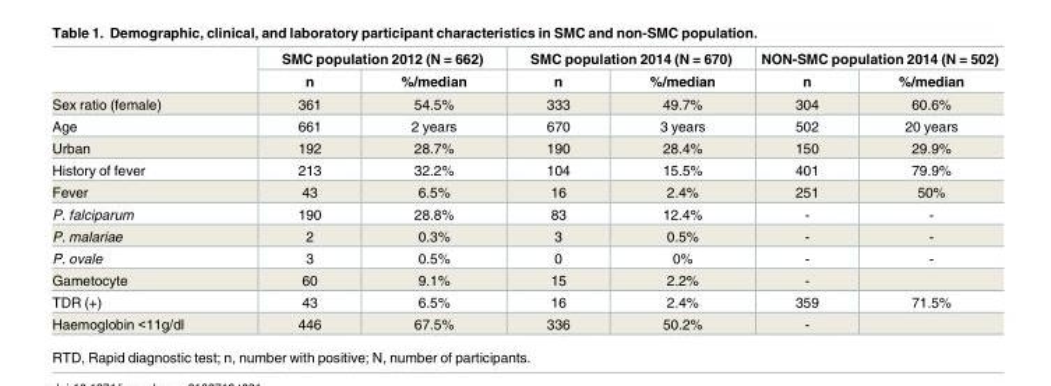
<table><thead><tr><td rowspan="2"></td><td colspan="2">SMC population 2012 (N = 662)</td><td colspan="2">SMC population 2014 (N = 670)</td><td colspan="2">NON-SMC population 2014 (N = 502)</td></tr><tr><td>n</td><td>%/median</td><td>n</td><td>%/median</td><td>n</td><td>%/median</td></tr></thead><tbody><tr><td>Sex ratio (female)</td><td>361</td><td>54.5%</td><td>333</td><td>49.7%</td><td>304</td><td>60.6%</td></tr><tr><td>Age</td><td>661</td><td>2 years</td><td>670</td><td>3 years</td><td>502</td><td>20 years</td></tr><tr><td>Urban</td><td>192</td><td>28.7%</td><td>190</td><td>28.4%</td><td>150</td><td>29.9%</td></tr><tr><td>History of fever</td><td>213</td><td>32.2%</td><td>104</td><td>15.5%</td><td>401</td><td>79.9%</td></tr><tr><td>Fever</td><td>43</td><td>6.5%</td><td>16</td><td>2.4%</td><td>251</td><td>50%</td></tr><tr><td>P. falciparum</td><td>190</td><td>28.8%</td><td>83</td><td>12.4%</td><td>-</td><td>-</td></tr><tr><td>P. malariae</td><td>2</td><td>0.3%</td><td>3</td><td>0.5%</td><td>-</td><td>-</td></tr><tr><td>P. ovale</td><td>3</td><td>0.5%</td><td>0</td><td>0%</td><td>-</td><td>-</td></tr><tr><td>Gametocyte</td><td>60</td><td>9.1%</td><td>15</td><td>2.2%</td><td>-</td><td></td></tr><tr><td>TDR (+)</td><td>43</td><td>6.5%</td><td>16</td><td>2.4%</td><td>359</td><td>71.5%</td></tr><tr><td>Haemoglobin &lt;11g/dl</td><td>446</td><td>67.5%</td><td>336</td><td>50.2%</td><td>-</td><td></td></tr></tbody></table>